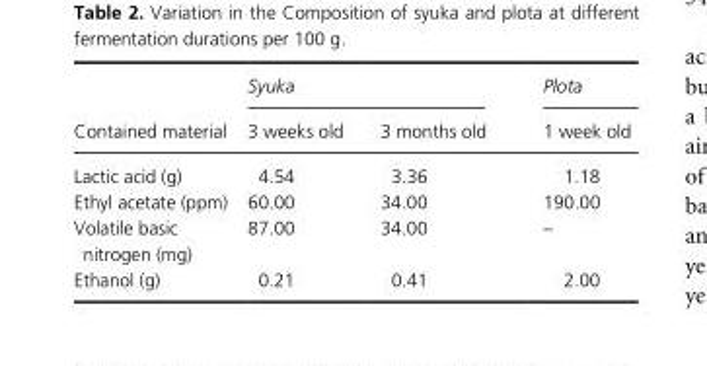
<table><thead><tr><td rowspan="2">Contained material</td><td colspan="2">Syuka</td><td rowspan="2">Plota 1 week old</td></tr><tr><td>3 weeks old</td><td>3 months old</td></tr></thead><tbody><tr><td>Lactic acid (g)</td><td>4.54</td><td>3.36</td><td>1.18</td></tr><tr><td>Ethyl acetate (ppm)</td><td>60.00</td><td>34.00</td><td>190.00</td></tr><tr><td>Volatile basic nitrogen (mg)</td><td>87.00</td><td>34.00</td><td>–</td></tr><tr><td>Ethanol (g)</td><td>0.21</td><td>0.41</td><td>2.00</td></tr></tbody></table>